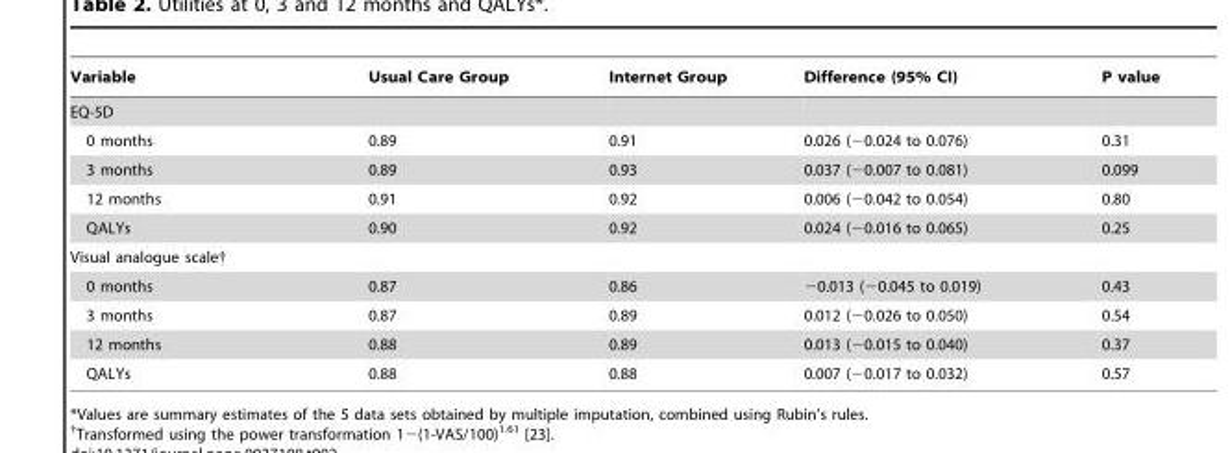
<table><thead><tr><td>Variable</td><td>Usual Care Group</td><td>Internet Group</td><td>Difference (95% CI)</td><td>P value</td></tr></thead><tbody><tr><td colspan="5">EQ-5D</td></tr><tr><td>0 months</td><td>0.89</td><td>0.91</td><td>0.026 (−0.024 to 0.076)</td><td>0.31</td></tr><tr><td>3 months</td><td>0.89</td><td>0.93</td><td>0.037 (−0.007 to 0.081)</td><td>0.099</td></tr><tr><td>12 months</td><td>0.91</td><td>0.92</td><td>0.006 (−0.042 to 0.054)</td><td>0.80</td></tr><tr><td>QALYs</td><td>0.90</td><td>0.92</td><td>0.024 (−0.016 to 0.065)</td><td>0.25</td></tr><tr><td colspan="5">Visual analogue scale†</td></tr><tr><td>0 months</td><td>0.87</td><td>0.86</td><td>−0.013 (−0.045 to 0.019)</td><td>0.43</td></tr><tr><td>3 months</td><td>0.87</td><td>0.89</td><td>0.012 (−0.026 to 0.050)</td><td>0.54</td></tr><tr><td>12 months</td><td>0.88</td><td>0.89</td><td>0.013 (−0.015 to 0.040)</td><td>0.37</td></tr><tr><td>QALYs</td><td>0.88</td><td>0.88</td><td>0.007 (−0.017 to 0.032)</td><td>0.57</td></tr></tbody></table>